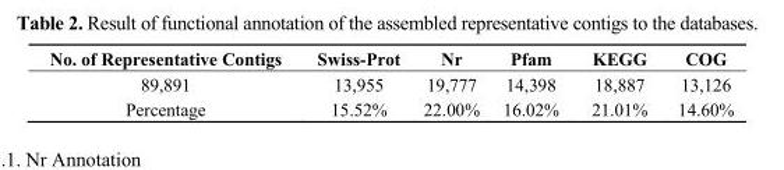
<table><thead><tr><td>No. of Representative Contigs</td><td>Swiss-Prot</td><td>Nr</td><td>Pfam</td><td>KEGG</td><td>COG</td></tr></thead><tbody><tr><td>89,891</td><td>13,955</td><td>19,777</td><td>14,398</td><td>18,887</td><td>13,126</td></tr><tr><td>Percentage</td><td>15.52%</td><td>22.00%</td><td>16.02%</td><td>21.01%</td><td>14.60%</td></tr></tbody></table>